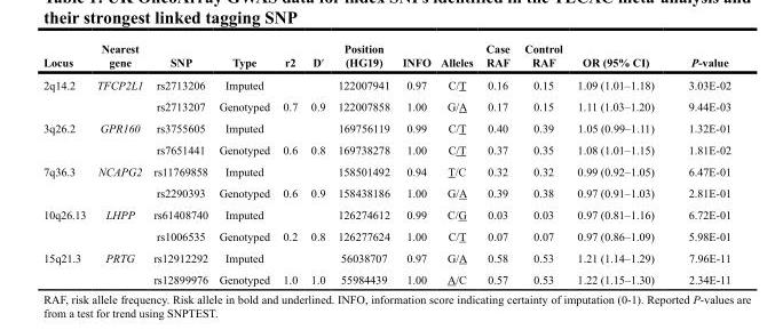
<table><thead><tr><td>Locus</td><td>Nearest gene</td><td>SNP</td><td>Type</td><td>r2</td><td>Dʹ</td><td>Position (HG19)</td><td>INFO</td><td>Alleles</td><td>Case RAF</td><td>Control RAF</td><td>OR (95% CI)</td><td>P-value</td></tr></thead><tbody><tr><td rowspan="2">2q14.2</td><td>TFCP2L1</td><td>rs2713206</td><td>Imputed</td><td></td><td></td><td>122007941</td><td>0.97</td><td>C/T</td><td>0.16</td><td>0.15</td><td>1.09 (1.01–1.18)</td><td>3.03E-02</td></tr><tr><td></td><td>rs2713207</td><td>Genotyped</td><td>0.7</td><td>0.9</td><td>122007858</td><td>1.00</td><td>G/A</td><td>0.17</td><td>0.15</td><td>1.11 (1.03–1.20)</td><td>9.44E-03</td></tr><tr><td rowspan="2">3q26.2</td><td>GPR160</td><td>rs3755605</td><td>Imputed</td><td></td><td></td><td>169756119</td><td>0.99</td><td>C/T</td><td>0.40</td><td>0.39</td><td>1.05 (0.99–1.11)</td><td>1.32E-01</td></tr><tr><td></td><td>rs7651441</td><td>Genotyped</td><td>0.6</td><td>0.8</td><td>169738278</td><td>1.00</td><td>C/T</td><td>0.37</td><td>0.35</td><td>1.08 (1.01–1.15)</td><td>1.81E-02</td></tr><tr><td rowspan="2">7q36.3</td><td>NCAPG2</td><td>rs11769858</td><td>Imputed</td><td></td><td></td><td>158501492</td><td>0.94</td><td>T/C</td><td>0.32</td><td>0.32</td><td>0.99 (0.92–1.05)</td><td>6.47E-01</td></tr><tr><td></td><td>rs2290393</td><td>Genotyped</td><td>0.6</td><td>0.9</td><td>158438186</td><td>1.00</td><td>G/A</td><td>0.39</td><td>0.38</td><td>0.97 (0.91–1.03)</td><td>2.81E-01</td></tr><tr><td rowspan="2">10q26.13</td><td>LHPP</td><td>rs61408740</td><td>Imputed</td><td></td><td></td><td>126274612</td><td>0.99</td><td>C/G</td><td>0.03</td><td>0.03</td><td>0.97 (0.81–1.16)</td><td>6.72E-01</td></tr><tr><td></td><td>rs1006535</td><td>Genotyped</td><td>0.2</td><td>0.8</td><td>126277624</td><td>1.00</td><td>C/T</td><td>0.07</td><td>0.07</td><td>0.97 (0.86–1.09)</td><td>5.98E-01</td></tr><tr><td rowspan="2">15q21.3</td><td>PRTG</td><td>rs12912292</td><td>Imputed</td><td></td><td></td><td>56038707</td><td>0.97</td><td>G/A</td><td>0.58</td><td>0.53</td><td>1.21 (1.14–1.29)</td><td>7.96E-11</td></tr><tr><td></td><td>rs12899976</td><td>Genotyped</td><td>1.0</td><td>1.0</td><td>55984439</td><td>1.00</td><td>A/C</td><td>0.57</td><td>0.53</td><td>1.22 (1.15–1.30)</td><td>2.34E-11</td></tr></tbody></table>